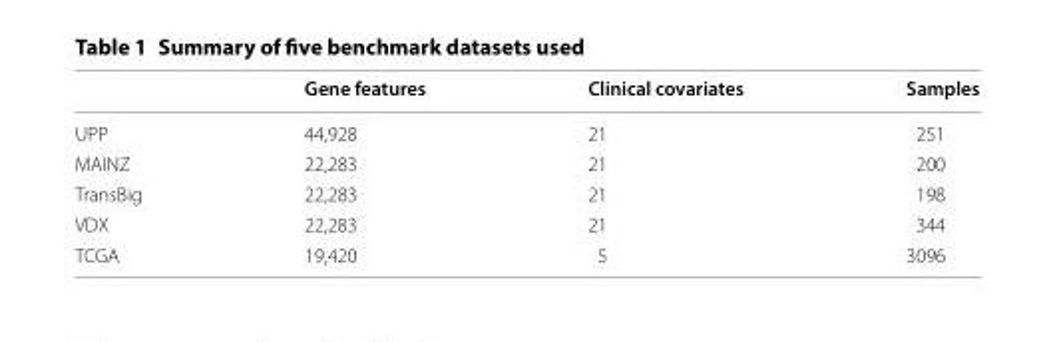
<table><thead><tr><td></td><td>Gene features</td><td>Clinical covariates</td><td>Samples</td></tr></thead><tbody><tr><td>UPP</td><td>44,928</td><td>21</td><td>251</td></tr><tr><td>MAINZ</td><td>22,283</td><td>21</td><td>200</td></tr><tr><td>TransBig</td><td>22,283</td><td>21</td><td>198</td></tr><tr><td>VDX</td><td>22,283</td><td>21</td><td>344</td></tr><tr><td>TCGA</td><td>19,420</td><td>5</td><td>3096</td></tr></tbody></table>